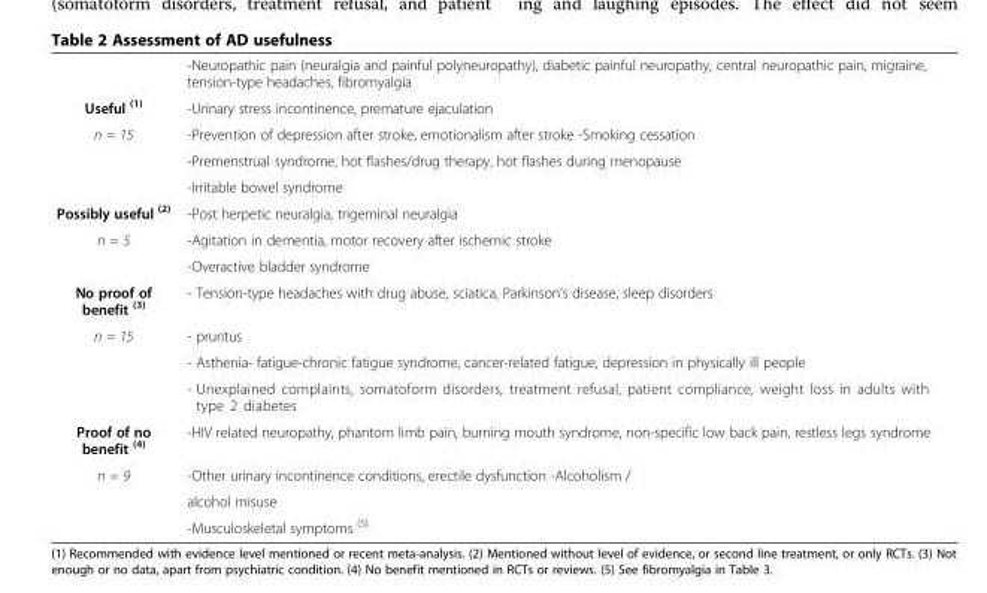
<table><thead><tr><td></td><td>-Neuropathic pain (neuralgia and painful polyneuropathy), diabetic painful neuropathy, central neuropathic pain, migraine, tension-type headaches, fibromyalgia</td></tr></thead><tbody><tr><td>Useful <sup>(1)</sup></td><td>-Urinary stress incontinence, premature ejaculation</td></tr><tr><td rowspan="3">n = 15</td><td>-Prevention of depression after stroke, emotionalism after stroke -Smoking cessation</td></tr><tr><td>-Premenstrual syndrome, hot flashes/drug therapy, hot flashes during menopause</td></tr><tr><td>-Irritable bowel syndrome</td></tr><tr><td>Possibly useful <sup>(2)</sup></td><td>-Post herpetic neuralgia, trigeminal neuralgia</td></tr><tr><td rowspan="2">n = 5</td><td>-Agitation in dementia, motor recovery after ischemic stroke</td></tr><tr><td>-Overactive bladder syndrome</td></tr><tr><td>No proof of benefit <sup>(3)</sup></td><td>- Tension-type headaches with drug abuse, sciatica, Parkinson’s disease, sleep disorders</td></tr><tr><td rowspan="3">n = 15</td><td>- pruritus</td></tr><tr><td>- Asthenia- fatigue-chronic fatigue syndrome, cancer-related fatigue, depression in physically ill people</td></tr><tr><td>- Unexplained complaints, somatoform disorders, treatment refusal, patient compliance, weight loss in adults with type 2 diabetes</td></tr><tr><td>Proof of no benefit <sup>(4)</sup></td><td>-HIV related neuropathy, phantom limb pain, burning mouth syndrome, non-specific low back pain, restless legs syndrome</td></tr><tr><td rowspan="3">n = 9</td><td>-Other urinary incontinence conditions, erectile dysfunction -Alcoholism /</td></tr><tr><td>alcohol misuse</td></tr><tr><td>-Musculoskeletal symptoms <sup>(5)</sup></td></tr></tbody></table>